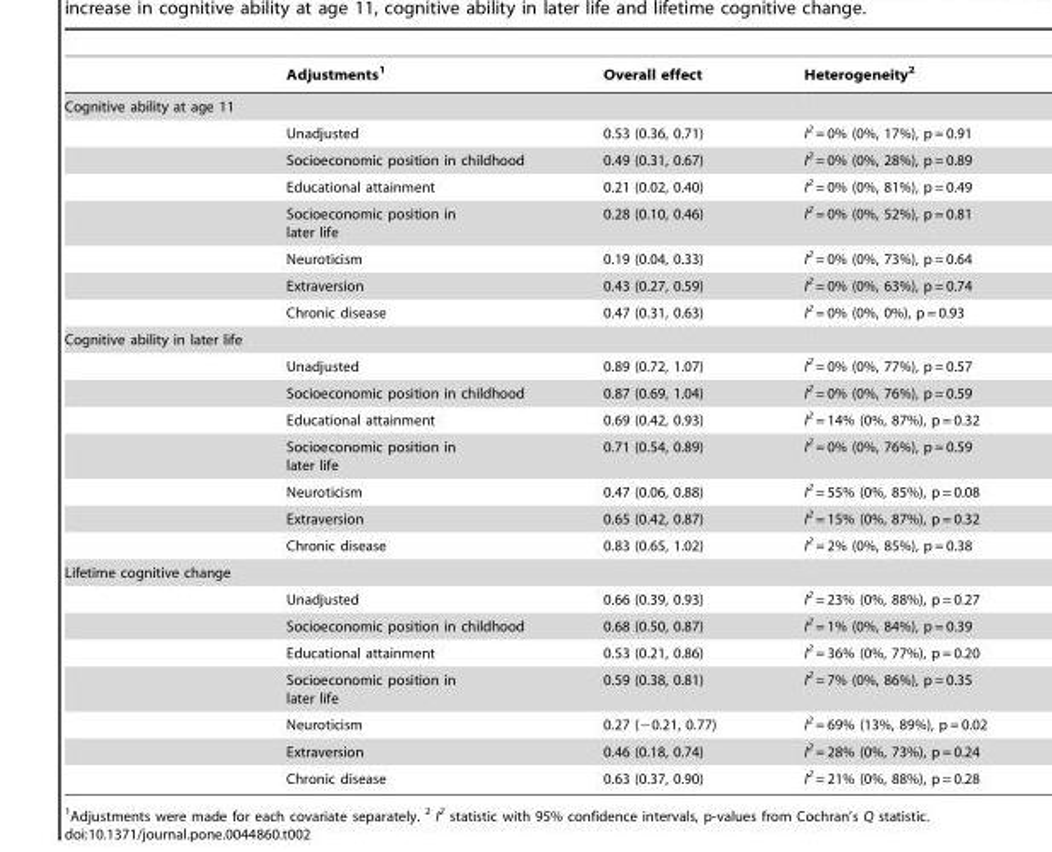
<table><thead><tr><td></td><td>Adjustments<sup>1</sup></td><td>Overall effect</td><td>Heterogeneity<sup>2</sup></td></tr></thead><tbody><tr><td colspan="4">Cognitive ability at age 11</td></tr><tr><td></td><td>Unadjusted</td><td>0.53 (0.36, 0.71)</td><td>I<sup>2</sup> = 0% (0%, 17%), p = 0.91</td></tr><tr><td></td><td>Socioeconomic position in childhood</td><td>0.49 (0.31, 0.67)</td><td>I<sup>2</sup> = 0% (0%, 28%), p = 0.89</td></tr><tr><td></td><td>Educational attainment</td><td>0.21 (0.02, 0.40)</td><td>I<sup>2</sup> = 0% (0%, 81%), p = 0.49</td></tr><tr><td></td><td>Socioeconomic position in later life</td><td>0.28 (0.10, 0.46)</td><td>I<sup>2</sup> = 0% (0%, 52%), p = 0.81</td></tr><tr><td></td><td>Neuroticism</td><td>0.19 (0.04, 0.33)</td><td>I<sup>2</sup> = 0% (0%, 73%), p = 0.64</td></tr><tr><td></td><td>Extraversion</td><td>0.43 (0.27, 0.59)</td><td>I<sup>2</sup> = 0% (0%, 63%), p = 0.74</td></tr><tr><td></td><td>Chronic disease</td><td>0.47 (0.31, 0.63)</td><td>I<sup>2</sup> = 0% (0%, 0%), p = 0.93</td></tr><tr><td colspan="4">Cognitive ability in later life</td></tr><tr><td></td><td>Unadjusted</td><td>0.89 (0.72, 1.07)</td><td>I<sup>2</sup> = 0% (0%, 77%), p = 0.57</td></tr><tr><td></td><td>Socioeconomic position in childhood</td><td>0.87 (0.69, 1.04)</td><td>I<sup>2</sup> = 0% (0%, 76%), p = 0.59</td></tr><tr><td></td><td>Educational attainment</td><td>0.69 (0.42, 0.93)</td><td>I<sup>2</sup> = 14% (0%, 87%), p = 0.32</td></tr><tr><td></td><td>Socioeconomic position in later life</td><td>0.71 (0.54, 0.89)</td><td>I<sup>2</sup> = 0% (0%, 76%), p = 0.59</td></tr><tr><td></td><td>Neuroticism</td><td>0.47 (0.06, 0.88)</td><td>I<sup>2</sup> = 55% (0%, 85%), p = 0.08</td></tr><tr><td></td><td>Extraversion</td><td>0.65 (0.42, 0.87)</td><td>I<sup>2</sup> = 15% (0%, 87%), p = 0.32</td></tr><tr><td></td><td>Chronic disease</td><td>0.83 (0.65, 1.02)</td><td>I<sup>2</sup> = 2% (0%, 85%), p = 0.38</td></tr><tr><td colspan="4">Lifetime cognitive change</td></tr><tr><td></td><td>Unadjusted</td><td>0.66 (0.39, 0.93)</td><td>I<sup>2</sup> = 23% (0%, 88%), p = 0.27</td></tr><tr><td></td><td>Socioeconomic position in childhood</td><td>0.68 (0.50, 0.87)</td><td>I<sup>2</sup> = 1% (0%, 84%), p = 0.39</td></tr><tr><td></td><td>Educational attainment</td><td>0.53 (0.21, 0.86)</td><td>I<sup>2</sup> = 36% (0%, 77%), p = 0.20</td></tr><tr><td></td><td>Socioeconomic position in later life</td><td>0.59 (0.38, 0.81)</td><td>I<sup>2</sup> = 7% (0%, 86%), p = 0.35</td></tr><tr><td></td><td>Neuroticism</td><td>0.27 (−0.21, 0.77)</td><td>I<sup>2</sup> = 69% (13%, 89%), p = 0.02</td></tr><tr><td></td><td>Extraversion</td><td>0.46 (0.18, 0.74)</td><td>I<sup>2</sup> = 28% (0%, 73%), p = 0.24</td></tr><tr><td></td><td>Chronic disease</td><td>0.63 (0.37, 0.90)</td><td>I<sup>2</sup> = 21% (0%, 88%), p = 0.28</td></tr></tbody></table>